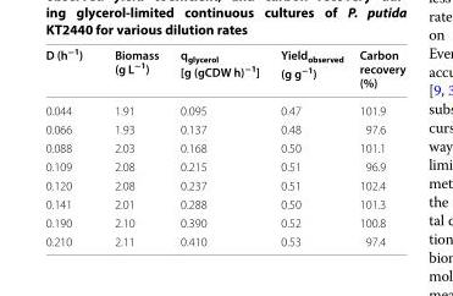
<table><thead><tr><td>D (h<sup>−1</sup>)</td><td>Biomass (g L<sup>−1</sup>)</td><td>q<sub>glycerol</sub> [g (gCDW h)<sup>−1</sup>]</td><td>Yield<sub>observed</sub> (g g<sup>−1</sup>)</td><td>Carbon recovery (%)</td></tr></thead><tbody><tr><td>0.044</td><td>1.91</td><td>0.095</td><td>0.47</td><td>101.9</td></tr><tr><td>0.066</td><td>1.93</td><td>0.137</td><td>0.48</td><td>97.6</td></tr><tr><td>0.088</td><td>2.03</td><td>0.168</td><td>0.50</td><td>101.1</td></tr><tr><td>0.109</td><td>2.08</td><td>0.215</td><td>0.51</td><td>96.9</td></tr><tr><td>0.120</td><td>2.08</td><td>0.237</td><td>0.51</td><td>102.4</td></tr><tr><td>0.141</td><td>2.01</td><td>0.288</td><td>0.50</td><td>101.3</td></tr><tr><td>0.190</td><td>2.10</td><td>0.390</td><td>0.52</td><td>100.8</td></tr><tr><td>0.210</td><td>2.11</td><td>0.410</td><td>0.53</td><td>97.4</td></tr></tbody></table>